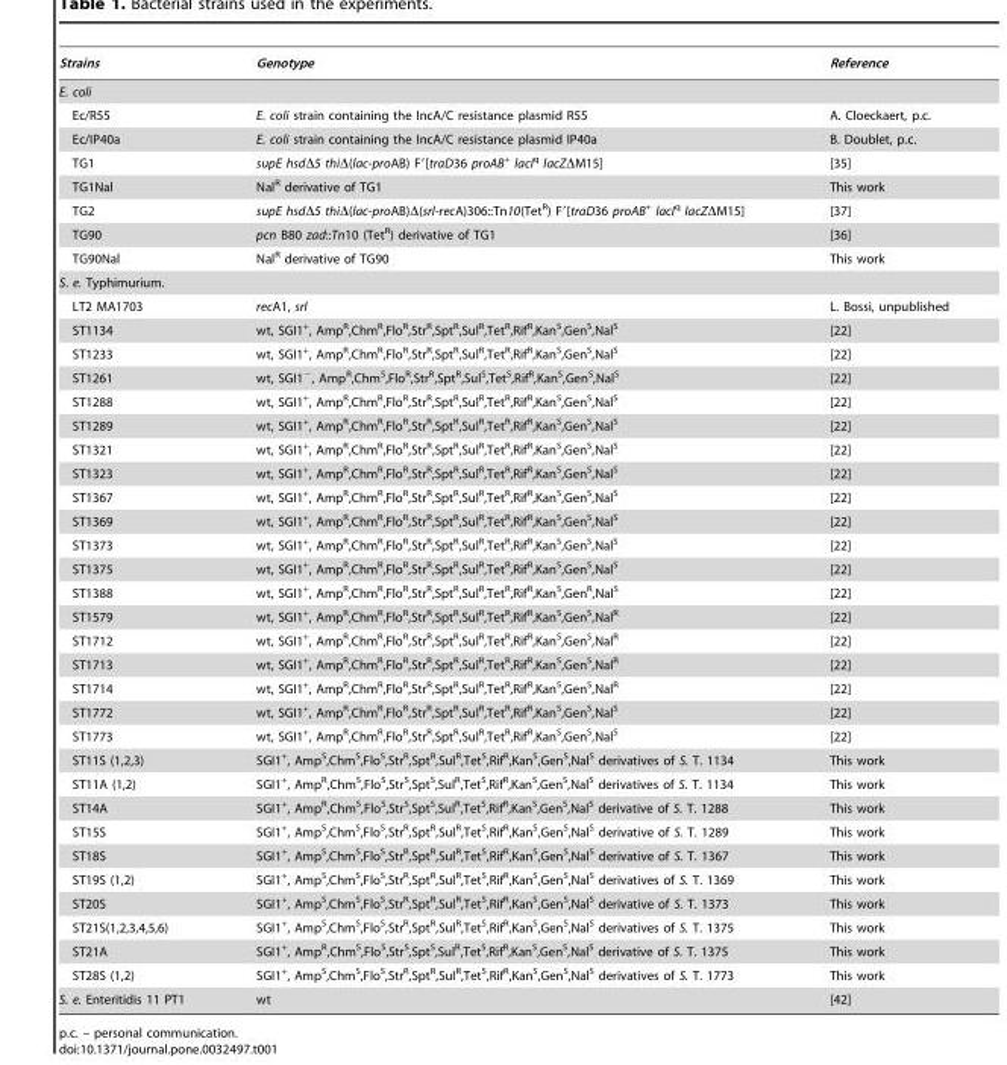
<table><thead><tr><td>Strains</td><td>Genotype</td><td>Reference</td></tr></thead><tbody><tr><td colspan="3">E. coli</td></tr><tr><td>Ec/R55</td><td>E. coli strain containing the IncA/C resistance plasmid R55</td><td>A. Cloeckaert, p.c.</td></tr><tr><td>Ec/IP40a</td><td>E. coli strain containing the IncA/C resistance plasmid IP40a</td><td>B. Doublet, p.c.</td></tr><tr><td>TG1</td><td>supE hsdΔ5 thiΔ(lac-proAB) F′[traD36 proAB<sup>+</sup> lacI<sup>q</sup> lacZΔM15]</td><td>[35]</td></tr><tr><td>TG1Nal</td><td>Nal<sup>R</sup> derivative of TG1</td><td>This work</td></tr><tr><td>TG2</td><td>supE hsdΔ5 thiΔ(lac-proAB)Δ(srl-recA)306::Tn10(Tet<sup>R</sup>) F′[traD36 proAB<sup>+</sup> lacI<sup>q</sup> lacZΔM15]</td><td>[37]</td></tr><tr><td>TG90</td><td>pcn B80 zad::Tn10 (Tet<sup>R</sup>) derivative of TG1</td><td>[36]</td></tr><tr><td>TG90Nal</td><td>Nal<sup>R</sup> derivative of TG90</td><td>This work</td></tr><tr><td colspan="3">S. e. Typhimurium.</td></tr><tr><td>LT2 MA1703</td><td>recA1, srl</td><td>L. Bossi, unpublished</td></tr><tr><td>ST1134</td><td>wt, SGI1<sup>+</sup>, Amp<sup>R</sup>,Chm<sup>R</sup>,Flo<sup>R</sup>,Str<sup>R</sup>,Spt<sup>R</sup>,Sul<sup>R</sup>,Tet<sup>R</sup>,Rif<sup>R</sup>,Kan<sup>S</sup>,Gen<sup>S</sup>,Nal<sup>S</sup></td><td>[22]</td></tr><tr><td>ST1233</td><td>wt, SGI1<sup>+</sup>, Amp<sup>R</sup>,Chm<sup>R</sup>,Flo<sup>R</sup>,Str<sup>R</sup>,Spt<sup>R</sup>,Sul<sup>R</sup>,Tet<sup>R</sup>,Rif<sup>R</sup>,Kan<sup>S</sup>,Gen<sup>S</sup>,Nal<sup>S</sup></td><td>[22]</td></tr><tr><td>ST1261</td><td>wt, SGI1<sup>−</sup>, Amp<sup>R</sup>,Chm<sup>S</sup>,Flo<sup>R</sup>,Str<sup>R</sup>,Spt<sup>R</sup>,Sul<sup>S</sup>,Tet<sup>S</sup>,Rif<sup>R</sup>,Kan<sup>S</sup>,Gen<sup>S</sup>,Nal<sup>S</sup></td><td>[22]</td></tr><tr><td>ST1288</td><td>wt, SGI1<sup>+</sup>, Amp<sup>R</sup>,Chm<sup>R</sup>,Flo<sup>R</sup>,Str<sup>R</sup>,Spt<sup>R</sup>,Sul<sup>R</sup>,Tet<sup>R</sup>,Rif<sup>R</sup>,Kan<sup>S</sup>,Gen<sup>S</sup>,Nal<sup>S</sup></td><td>[22]</td></tr><tr><td>ST1289</td><td>wt, SGI1<sup>+</sup>, Amp<sup>R</sup>,Chm<sup>R</sup>,Flo<sup>R</sup>,Str<sup>R</sup>,Spt<sup>R</sup>,Sul<sup>R</sup>,Tet<sup>R</sup>,Rif<sup>R</sup>,Kan<sup>S</sup>,Gen<sup>S</sup>,Nal<sup>S</sup></td><td>[22]</td></tr><tr><td>ST1321</td><td>wt, SGI1<sup>+</sup>, Amp<sup>R</sup>,Chm<sup>R</sup>,Flo<sup>R</sup>,Str<sup>R</sup>,Spt<sup>R</sup>,Sul<sup>R</sup>,Tet<sup>R</sup>,Rif<sup>R</sup>,Kan<sup>S</sup>,Gen<sup>S</sup>,Nal<sup>S</sup></td><td>[22]</td></tr><tr><td>ST1323</td><td>wt, SGI1<sup>+</sup>, Amp<sup>R</sup>,Chm<sup>R</sup>,Flo<sup>R</sup>,Str<sup>R</sup>,Spt<sup>R</sup>,Sul<sup>R</sup>,Tet<sup>R</sup>,Rif<sup>R</sup>,Kan<sup>S</sup>,Gen<sup>S</sup>,Nal<sup>S</sup></td><td>[22]</td></tr><tr><td>ST1367</td><td>wt, SGI1<sup>+</sup>, Amp<sup>R</sup>,Chm<sup>R</sup>,Flo<sup>R</sup>,Str<sup>R</sup>,Spt<sup>R</sup>,Sul<sup>R</sup>,Tet<sup>R</sup>,Rif<sup>R</sup>,Kan<sup>S</sup>,Gen<sup>S</sup>,Nal<sup>S</sup></td><td>[22]</td></tr><tr><td>ST1369</td><td>wt, SGI1<sup>+</sup>, Amp<sup>R</sup>,Chm<sup>R</sup>,Flo<sup>R</sup>,Str<sup>R</sup>,Spt<sup>R</sup>,Sul<sup>R</sup>,Tet<sup>R</sup>,Rif<sup>R</sup>,Kan<sup>S</sup>,Gen<sup>S</sup>,Nal<sup>S</sup></td><td>[22]</td></tr><tr><td>ST1373</td><td>wt, SGI1<sup>+</sup>, Amp<sup>R</sup>,Chm<sup>R</sup>,Flo<sup>R</sup>,Str<sup>R</sup>,Spt<sup>R</sup>,Sul<sup>R</sup>,Tet<sup>R</sup>,Rif<sup>R</sup>,Kan<sup>S</sup>,Gen<sup>S</sup>,Nal<sup>S</sup></td><td>[22]</td></tr><tr><td>ST1375</td><td>wt, SGI1<sup>+</sup>, Amp<sup>R</sup>,Chm<sup>R</sup>,Flo<sup>R</sup>,Str<sup>R</sup>,Spt<sup>R</sup>,Sul<sup>R</sup>,Tet<sup>R</sup>,Rif<sup>R</sup>,Kan<sup>S</sup>,Gen<sup>S</sup>,Nal<sup>S</sup></td><td>[22]</td></tr><tr><td>ST1388</td><td>wt, SGI1<sup>+</sup>, Amp<sup>R</sup>,Chm<sup>R</sup>,Flo<sup>R</sup>,Str<sup>R</sup>,Spt<sup>R</sup>,Sul<sup>R</sup>,Tet<sup>R</sup>,Rif<sup>R</sup>,Kan<sup>S</sup>,Gen<sup>R</sup>,Nal<sup>S</sup></td><td>[22]</td></tr><tr><td>ST1579</td><td>wt, SGI1<sup>+</sup>, Amp<sup>R</sup>,Chm<sup>R</sup>,Flo<sup>R</sup>,Str<sup>R</sup>,Spt<sup>R</sup>,Sul<sup>R</sup>,Tet<sup>R</sup>,Rif<sup>R</sup>,Kan<sup>S</sup>,Gen<sup>S</sup>,Nal<sup>R</sup></td><td>[22]</td></tr><tr><td>ST1712</td><td>wt, SGI1<sup>+</sup>, Amp<sup>R</sup>,Chm<sup>R</sup>,Flo<sup>R</sup>,Str<sup>R</sup>,Spt<sup>R</sup>,Sul<sup>R</sup>,Tet<sup>R</sup>,Rif<sup>R</sup>,Kan<sup>S</sup>,Gen<sup>S</sup>,Nal<sup>R</sup></td><td>[22]</td></tr><tr><td>ST1713</td><td>wt, SGI1<sup>+</sup>, Amp<sup>R</sup>,Chm<sup>R</sup>,Flo<sup>R</sup>,Str<sup>R</sup>,Spt<sup>R</sup>,Sul<sup>R</sup>,Tet<sup>R</sup>,Rif<sup>R</sup>,Kan<sup>S</sup>,Gen<sup>S</sup>,Nal<sup>R</sup></td><td>[22]</td></tr><tr><td>ST1714</td><td>wt, SGI1<sup>+</sup>, Amp<sup>R</sup>,Chm<sup>R</sup>,Flo<sup>R</sup>,Str<sup>R</sup>,Spt<sup>R</sup>,Sul<sup>R</sup>,Tet<sup>R</sup>,Rif<sup>R</sup>,Kan<sup>S</sup>,Gen<sup>S</sup>,Nal<sup>R</sup></td><td>[22]</td></tr><tr><td>ST1772</td><td>wt, SGI1<sup>+</sup>, Amp<sup>R</sup>,Chm<sup>R</sup>,Flo<sup>R</sup>,Str<sup>R</sup>,Spt<sup>R</sup>,Sul<sup>R</sup>,Tet<sup>R</sup>,Rif<sup>R</sup>,Kan<sup>S</sup>,Gen<sup>S</sup>,Nal<sup>S</sup></td><td>[22]</td></tr><tr><td>ST1773</td><td>wt, SGI1<sup>+</sup>, Amp<sup>R</sup>,Chm<sup>R</sup>,Flo<sup>R</sup>,Str<sup>R</sup>,Spt<sup>R</sup>,Sul<sup>R</sup>,Tet<sup>R</sup>,Rif<sup>R</sup>,Kan<sup>S</sup>,Gen<sup>S</sup>,Nal<sup>S</sup></td><td>[22]</td></tr><tr><td>ST11S (1,2,3)</td><td>SGI1<sup>+</sup>, Amp<sup>S</sup>,Chm<sup>S</sup>,Flo<sup>S</sup>,Str<sup>R</sup>,Spt<sup>R</sup>,Sul<sup>R</sup>,Tet<sup>S</sup>,Rif<sup>R</sup>,Kan<sup>S</sup>,Gen<sup>S</sup>,Nal<sup>S</sup> derivatives of S. T. 1134</td><td>This work</td></tr><tr><td>ST11A (1,2)</td><td>SGI1<sup>+</sup>, Amp<sup>R</sup>,Chm<sup>S</sup>,Flo<sup>S</sup>,Str<sup>S</sup>,Spt<sup>S</sup>,Sul<sup>R</sup>,Tet<sup>S</sup>,Rif<sup>R</sup>,Kan<sup>S</sup>,Gen<sup>S</sup>,Nal<sup>S</sup> derivatives of S. T. 1134</td><td>This work</td></tr><tr><td>ST14A</td><td>SGI1<sup>+</sup>, Amp<sup>R</sup>,Chm<sup>S</sup>,Flo<sup>S</sup>,Str<sup>S</sup>,Spt<sup>S</sup>,Sul<sup>R</sup>,Tet<sup>S</sup>,Rif<sup>R</sup>,Kan<sup>S</sup>,Gen<sup>S</sup>,Nal<sup>S</sup> derivative of S. T. 1288</td><td>This work</td></tr><tr><td>ST15S</td><td>SGI1<sup>+</sup>, Amp<sup>S</sup>,Chm<sup>S</sup>,Flo<sup>S</sup>,Str<sup>R</sup>,Spt<sup>R</sup>,Sul<sup>R</sup>,Tet<sup>S</sup>,Rif<sup>R</sup>,Kan<sup>S</sup>,Gen<sup>S</sup>,Nal<sup>S</sup> derivative of S. T. 1289</td><td>This work</td></tr><tr><td>ST18S</td><td>SGI1<sup>+</sup>, Amp<sup>S</sup>,Chm<sup>S</sup>,Flo<sup>S</sup>,Str<sup>R</sup>,Spt<sup>R</sup>,Sul<sup>R</sup>,Tet<sup>S</sup>,Rif<sup>R</sup>,Kan<sup>S</sup>,Gen<sup>S</sup>,Nal<sup>S</sup> derivative of S. T. 1367</td><td>This work</td></tr><tr><td>ST19S (1,2)</td><td>SGI1<sup>+</sup>, Amp<sup>S</sup>,Chm<sup>S</sup>,Flo<sup>S</sup>,Str<sup>R</sup>,Spt<sup>R</sup>,Sul<sup>R</sup>,Tet<sup>S</sup>,Rif<sup>R</sup>,Kan<sup>S</sup>,Gen<sup>S</sup>,Nal<sup>S</sup> derivatives of S. T. 1369</td><td>This work</td></tr><tr><td>ST20S</td><td>SGI1<sup>+</sup>, Amp<sup>S</sup>,Chm<sup>S</sup>,Flo<sup>S</sup>,Str<sup>R</sup>,Spt<sup>R</sup>,Sul<sup>R</sup>,Tet<sup>S</sup>,Rif<sup>R</sup>,Kan<sup>S</sup>,Gen<sup>S</sup>,Nal<sup>S</sup> derivative of S. T. 1373</td><td>This work</td></tr><tr><td>ST21S(1,2,3,4,5,6)</td><td>SGI1<sup>+</sup>, Amp<sup>S</sup>,Chm<sup>S</sup>,Flo<sup>S</sup>,Str<sup>R</sup>,Spt<sup>R</sup>,Sul<sup>R</sup>,Tet<sup>S</sup>,Rif<sup>R</sup>,Kan<sup>S</sup>,Gen<sup>S</sup>,Nal<sup>S</sup> derivatives of S. T. 1375</td><td>This work</td></tr><tr><td>ST21A</td><td>SGI1<sup>+</sup>, Amp<sup>R</sup>,Chm<sup>S</sup>,Flo<sup>S</sup>,Str<sup>S</sup>,Spt<sup>S</sup>,Sul<sup>R</sup>,Tet<sup>S</sup>,Rif<sup>R</sup>,Kan<sup>S</sup>,Gen<sup>S</sup>,Nal<sup>S</sup> derivative of S. T. 1375</td><td>This work</td></tr><tr><td>ST28S (1,2)</td><td>SGI1<sup>+</sup>, Amp<sup>S</sup>,Chm<sup>S</sup>,Flo<sup>S</sup>,Str<sup>R</sup>,Spt<sup>R</sup>,Sul<sup>R</sup>,Tet<sup>S</sup>,Rif<sup>R</sup>,Kan<sup>S</sup>,Gen<sup>S</sup>,Nal<sup>S</sup> derivatives of S. T. 1773</td><td>This work</td></tr><tr><td>S. e. Enteritidis 11 PT1</td><td>wt</td><td>[42]</td></tr></tbody></table>